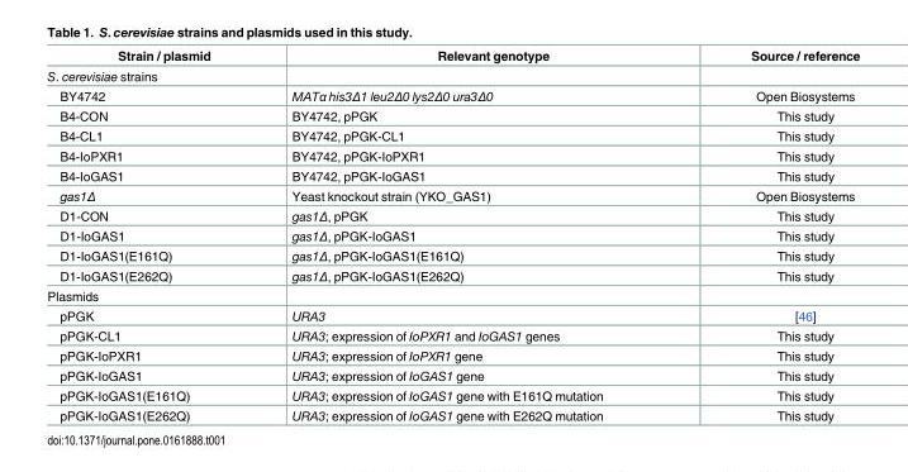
<table><thead><tr><td>Strain / plasmid</td><td>Relevant genotype</td><td>Source / reference</td></tr></thead><tbody><tr><td colspan="3">S. cerevisiae strains</td></tr><tr><td>BY4742</td><td>MATα his3Δ1 leu2Δ0 lys2Δ0 ura3Δ0</td><td>Open Biosystems</td></tr><tr><td>B4-CON</td><td>BY4742, pPGK</td><td>This study</td></tr><tr><td>B4-CL1</td><td>BY4742, pPGK-CL1</td><td>This study</td></tr><tr><td>B4-IoPXR1</td><td>BY4742, pPGK-IoPXR1</td><td>This study</td></tr><tr><td>B4-IoGAS1</td><td>BY4742, pPGK-IoGAS1</td><td>This study</td></tr><tr><td>gas1Δ</td><td>Yeast knockout strain (YKO_GAS1)</td><td>Open Biosystems</td></tr><tr><td>D1-CON</td><td>gas1Δ, pPGK</td><td>This study</td></tr><tr><td>D1-IoGAS1</td><td>gas1Δ, pPGK-IoGAS1</td><td>This study</td></tr><tr><td>D1-IoGAS1(E161Q)</td><td>gas1Δ, pPGK-IoGAS1(E161Q)</td><td>This study</td></tr><tr><td>D1-IoGAS1(E262Q)</td><td>gas1Δ, pPGK-IoGAS1(E262Q)</td><td>This study</td></tr><tr><td colspan="3">Plasmids</td></tr><tr><td>pPGK</td><td>URA3</td><td>[46]</td></tr><tr><td>pPGK-CL1</td><td>URA3; expression of IoPXR1 and IoGAS1 genes</td><td>This study</td></tr><tr><td>pPGK-IoPXR1</td><td>URA3; expression of IoPXR1 gene</td><td>This study</td></tr><tr><td>pPGK-IoGAS1</td><td>URA3; expression of IoGAS1 gene</td><td>This study</td></tr><tr><td>pPGK-IoGAS1(E161Q)</td><td>URA3; expression of IoGAS1 gene with E161Q mutation</td><td>This study</td></tr><tr><td>pPGK-IoGAS1(E262Q)</td><td>URA3; expression of IoGAS1 gene with E262Q mutation</td><td>This study</td></tr></tbody></table>